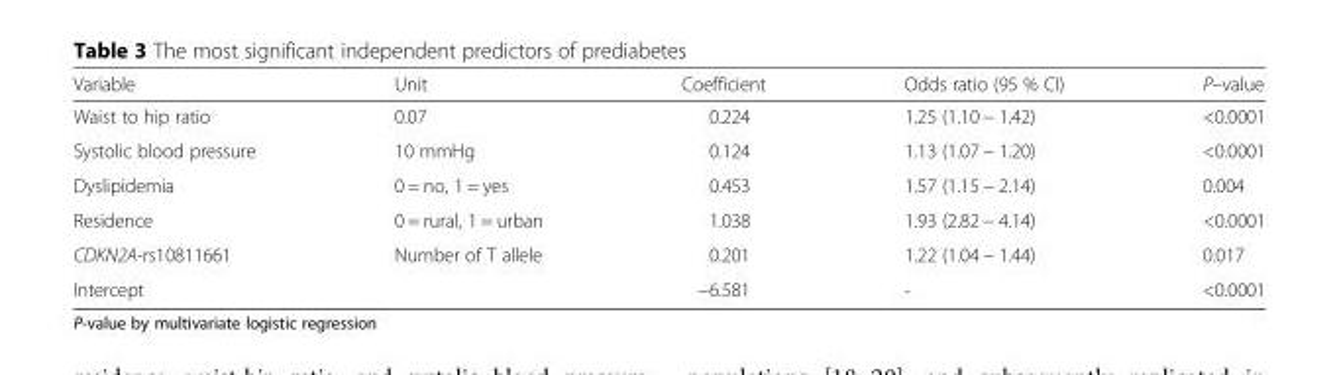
<table><thead><tr><td>Variable</td><td>Unit</td><td>Coefficient</td><td>Odds ratio (95 % CI)</td><td>P–value</td></tr></thead><tbody><tr><td>Waist to hip ratio</td><td>0.07</td><td>0.224</td><td>1.25 (1.10 − 1.42)</td><td>&lt;0.0001</td></tr><tr><td>Systolic blood pressure</td><td>10 mmHg</td><td>0.124</td><td>1.13 (1.07 − 1.20)</td><td>&lt;0.0001</td></tr><tr><td>Dyslipidemia</td><td>0 = no, 1 = yes</td><td>0.453</td><td>1.57 (1.15 − 2.14)</td><td>0.004</td></tr><tr><td>Residence</td><td>0 = rural, 1 = urban</td><td>1.038</td><td>1.93 (2.82 − 4.14)</td><td>&lt;0.0001</td></tr><tr><td>CDKN2A-rs10811661</td><td>Number of T allele</td><td>0.201</td><td>1.22 (1.04 − 1.44)</td><td>0.017</td></tr><tr><td>Intercept</td><td></td><td>−6.581</td><td>-</td><td>&lt;0.0001</td></tr></tbody></table>